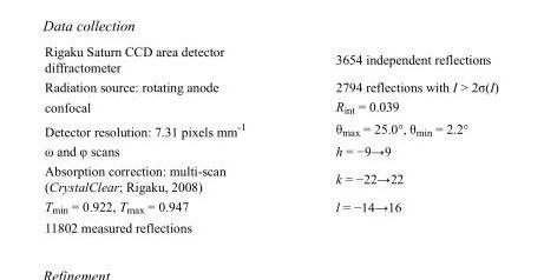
<table><tbody><tr><td>Rigaku Saturn CCD area detector diffractometer</td><td>3654 independent reflections</td></tr><tr><td>Radiation source: rotating anode</td><td>2794 reflections with I &gt; 2σ(I)</td></tr><tr><td>confocal</td><td>R<sub>int</sub> = 0.039</td></tr><tr><td>Detector resolution: 7.31 pixels mm<sup>-1</sup></td><td>θ<sub>max</sub> = 25.0°, θ<sub>min</sub> = 2.2°</td></tr><tr><td>ω and φ scans</td><td>h = −9→9</td></tr><tr><td>Absorption correction: multi-scan (CrystalClear; Rigaku, 2008)</td><td>k = −22→22</td></tr><tr><td>T<sub>min</sub> = 0.922, T<sub>max</sub> = 0.947</td><td>l = −14→16</td></tr><tr><td>11802 measured reflections</td><td></td></tr></tbody></table>